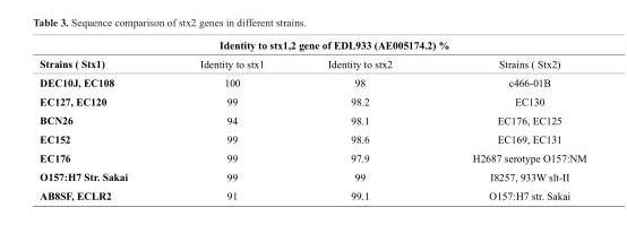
<table><thead><tr><td colspan="4">Identity to stx1,2 gene of EDL933 (AE005174.2) %</td></tr><tr><td>Strains ( Stx1)</td><td>Identity to stx1</td><td>Identity to stx2</td><td>Strains ( Stx2)</td></tr></thead><tbody><tr><td>DEC10J, EC108</td><td>100</td><td>98</td><td>c466-01B</td></tr><tr><td>EC127, EC120</td><td>99</td><td>98.2</td><td>EC130</td></tr><tr><td>BCN26</td><td>94</td><td>98.1</td><td>EC176, EC125</td></tr><tr><td>EC152</td><td>99</td><td>98.6</td><td>EC169, EC131</td></tr><tr><td>EC176</td><td>99</td><td>97.9</td><td>H2687 serotype O157:NM</td></tr><tr><td>O157:H7 Str. Sakai</td><td>99</td><td>99</td><td>I8257, 933W slt-II</td></tr><tr><td>AB8SF, ECLR2</td><td>91</td><td>99.1</td><td>O157:H7 str. Sakai</td></tr></tbody></table>